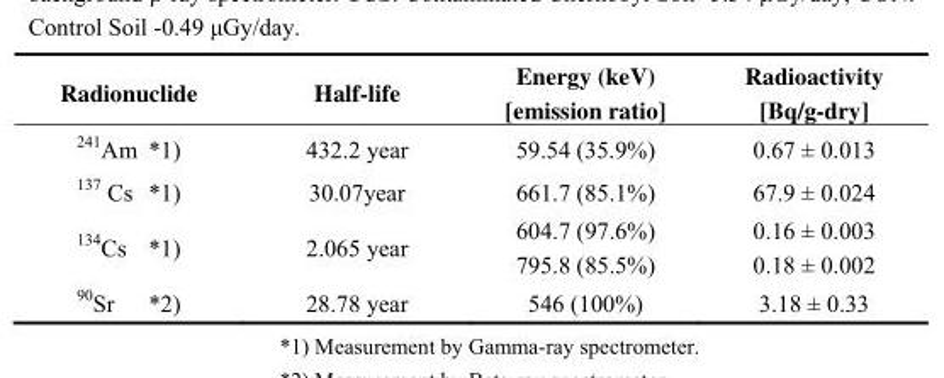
<table><thead><tr><td>Radionuclide</td><td>Half-life</td><td>Energy (keV) [emission ratio]</td><td>Radioactivity [Bq/g-dry]</td></tr></thead><tbody><tr><td><sup>241</sup>Am *1)</td><td>432.2 year</td><td>59.54 (35.9%)</td><td>0.67 ± 0.013</td></tr><tr><td><sup>137</sup> Cs *1)</td><td>30.07year</td><td>661.7 (85.1%)</td><td>67.9 ± 0.024</td></tr><tr><td rowspan="2"><sup>134</sup>Cs *1)</td><td rowspan="2">2.065 year</td><td>604.7 (97.6%)</td><td>0.16 ± 0.003</td></tr><tr><td>795.8 (85.5%)</td><td>0.18 ± 0.002</td></tr><tr><td><sup>90</sup>Sr *2)</td><td>28.78 year</td><td>546 (100%)</td><td>3.18 ± 0.33</td></tr></tbody></table>